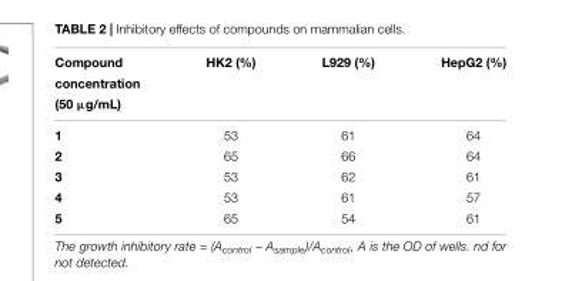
<table><thead><tr><td rowspan="3">Compound concentration (50 µg/mL)</td><td rowspan="3">HK2 (%)</td><td rowspan="3">L929 (%)</td><td rowspan="3">HepG2 (%)</td></tr><tr></tr><tr></tr></thead><tbody><tr><td>1</td><td>53</td><td>61</td><td>64</td></tr><tr><td>2</td><td>65</td><td>66</td><td>64</td></tr><tr><td>3</td><td>53</td><td>62</td><td>61</td></tr><tr><td>4</td><td>53</td><td>61</td><td>57</td></tr><tr><td>5</td><td>65</td><td>54</td><td>61</td></tr></tbody></table>